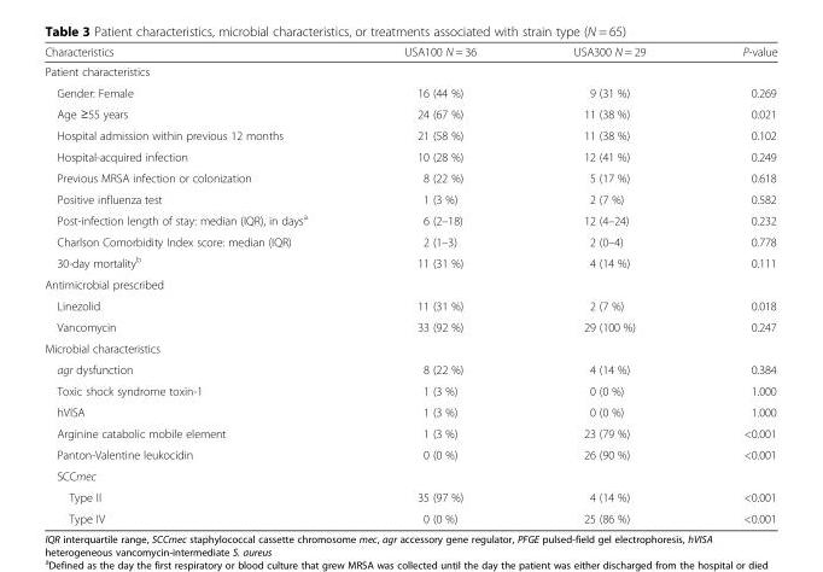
<table><thead><tr><td>Characteristics</td><td>USA100 N = 36</td><td>USA300 N = 29</td><td>P-value</td></tr></thead><tbody><tr><td colspan="4">Patient characteristics</td></tr><tr><td>Gender: Female</td><td>16 (44 %)</td><td>9 (31 %)</td><td>0.269</td></tr><tr><td>Age ≥55 years</td><td>24 (67 %)</td><td>11 (38 %)</td><td>0.021</td></tr><tr><td>Hospital admission within previous 12 months</td><td>21 (58 %)</td><td>11 (38 %)</td><td>0.102</td></tr><tr><td>Hospital-acquired infection</td><td>10 (28 %)</td><td>12 (41 %)</td><td>0.249</td></tr><tr><td>Previous MRSA infection or colonization</td><td>8 (22 %)</td><td>5 (17 %)</td><td>0.618</td></tr><tr><td>Positive influenza test</td><td>1 (3 %)</td><td>2 (7 %)</td><td>0.582</td></tr><tr><td>Post-infection length of stay: median (IQR), in days<sup>a</sup></td><td>6 (2–18)</td><td>12 (4–24)</td><td>0.232</td></tr><tr><td>Charlson Comorbidity Index score: median (IQR)</td><td>2 (1–3)</td><td>2 (0–4)</td><td>0.778</td></tr><tr><td>30-day mortality<sup>b</sup></td><td>11 (31 %)</td><td>4 (14 %)</td><td>0.111</td></tr><tr><td colspan="4">Antimicrobial prescribed</td></tr><tr><td>Linezolid</td><td>11 (31 %)</td><td>2 (7 %)</td><td>0.018</td></tr><tr><td>Vancomycin</td><td>33 (92 %)</td><td>29 (100 %)</td><td>0.247</td></tr><tr><td colspan="4">Microbial characteristics</td></tr><tr><td>agr dysfunction</td><td>8 (22 %)</td><td>4 (14 %)</td><td>0.384</td></tr><tr><td>Toxic shock syndrome toxin-1</td><td>1 (3 %)</td><td>0 (0 %)</td><td>1.000</td></tr><tr><td>hVISA</td><td>1 (3 %)</td><td>0 (0 %)</td><td>1.000</td></tr><tr><td>Arginine catabolic mobile element</td><td>1 (3 %)</td><td>23 (79 %)</td><td>&lt;0.001</td></tr><tr><td>Panton-Valentine leukocidin</td><td>0 (0 %)</td><td>26 (90 %)</td><td>&lt;0.001</td></tr><tr><td colspan="4">SCCmec</td></tr><tr><td>Type II</td><td>35 (97 %)</td><td>4 (14 %)</td><td>&lt;0.001</td></tr><tr><td>Type IV</td><td>0 (0 %)</td><td>25 (86 %)</td><td>&lt;0.001</td></tr></tbody></table>